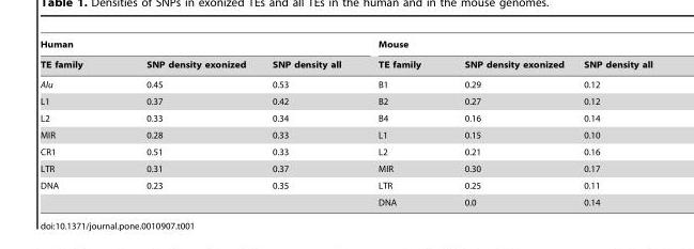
<table><thead><tr><td colspan="3">Human</td><td colspan="3">Mouse</td></tr><tr><td>TE family</td><td>SNP density exonized</td><td>SNP density all</td><td>TE family</td><td>SNP density exonized</td><td>SNP density all</td></tr></thead><tbody><tr><td>Alu</td><td>0.45</td><td>0.53</td><td>B1</td><td>0.29</td><td>0.12</td></tr><tr><td>L1</td><td>0.37</td><td>0.42</td><td>B2</td><td>0.27</td><td>0.12</td></tr><tr><td>L2</td><td>0.33</td><td>0.34</td><td>B4</td><td>0.16</td><td>0.14</td></tr><tr><td>MIR</td><td>0.28</td><td>0.33</td><td>L1</td><td>0.15</td><td>0.10</td></tr><tr><td>CR1</td><td>0.51</td><td>0.33</td><td>L2</td><td>0.21</td><td>0.16</td></tr><tr><td>LTR</td><td>0.31</td><td>0.37</td><td>MIR</td><td>0.30</td><td>0.17</td></tr><tr><td rowspan="2">DNA</td><td>0.23</td><td>0.35</td><td>LTR</td><td>0.25</td><td>0.11</td></tr><tr><td></td><td></td><td>DNA</td><td>0.0</td><td>0.14</td></tr></tbody></table>